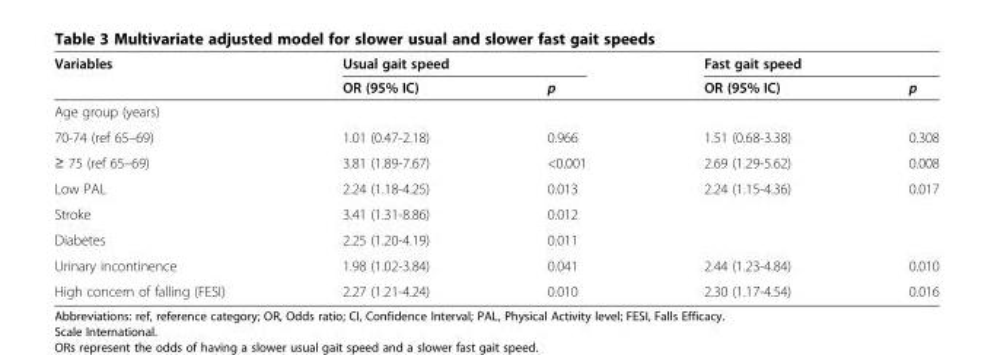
<table><thead><tr><td rowspan="2">Variables</td><td colspan="2">Usual gait speed</td><td colspan="2">Fast gait speed</td></tr><tr><td>OR (95% IC)</td><td>p</td><td>OR (95% IC)</td><td>p</td></tr></thead><tbody><tr><td colspan="5">Age group (years)</td></tr><tr><td>70-74 (ref 65–69)</td><td>1.01 (0.47-2.18)</td><td>0.966</td><td>1.51 (0.68-3.38)</td><td>0.308</td></tr><tr><td>≥ 75 (ref 65–69)</td><td>3.81 (1.89-7.67)</td><td>&lt;0.001</td><td>2.69 (1.29-5.62)</td><td>0.008</td></tr><tr><td>Low PAL</td><td>2.24 (1.18-4.25)</td><td>0.013</td><td>2.24 (1.15-4.36)</td><td>0.017</td></tr><tr><td>Stroke</td><td>3.41 (1.31-8.86)</td><td>0.012</td><td></td><td></td></tr><tr><td>Diabetes</td><td>2.25 (1.20-4.19)</td><td>0.011</td><td></td><td></td></tr><tr><td>Urinary incontinence</td><td>1.98 (1.02-3.84)</td><td>0.041</td><td>2.44 (1.23-4.84)</td><td>0.010</td></tr><tr><td>High concern of falling (FESI)</td><td>2.27 (1.21-4.24)</td><td>0.010</td><td>2.30 (1.17-4.54)</td><td>0.016</td></tr></tbody></table>